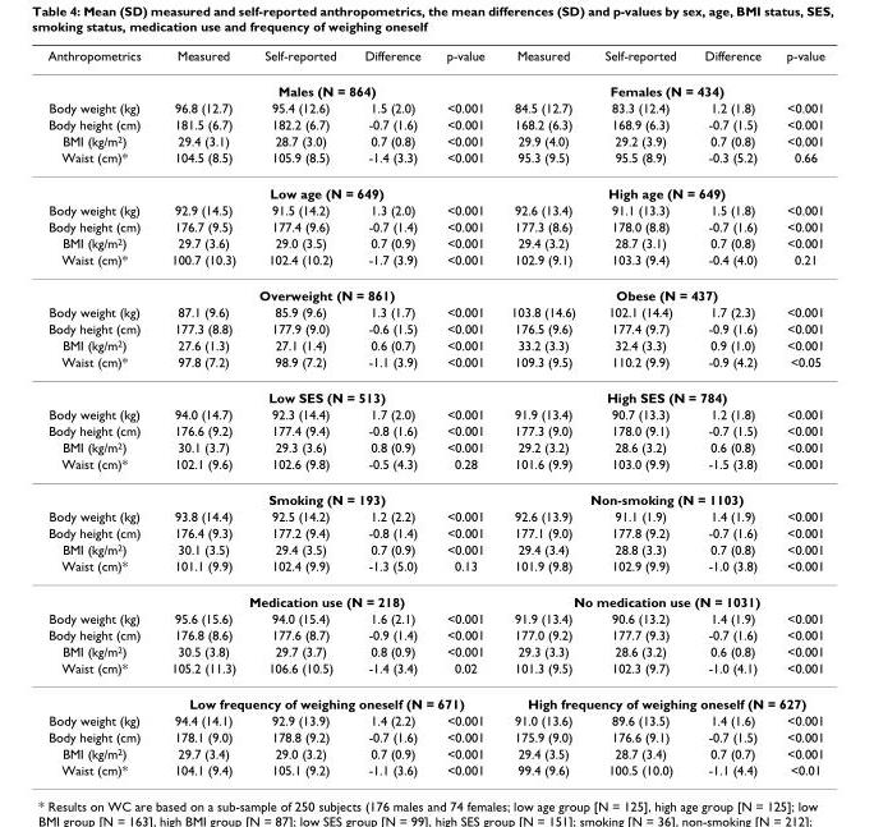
<table><thead><tr><td>Anthropometrics</td><td>Measured</td><td>Self-reported</td><td>Difference</td><td>p-value</td><td>Measured</td><td>Self-reported</td><td>Difference</td><td>p-value</td></tr></thead><tbody><tr><td></td><td colspan="4">Males (N = 864)</td><td colspan="4">Females (N = 434)</td></tr><tr><td>Body weight (kg)</td><td>96.8 (12.7)</td><td>95.4 (12.6)</td><td>1.5 (2.0)</td><td>&lt;0.001</td><td>84.5 (12.7)</td><td>83.3 (12.4)</td><td>1.2 (1.8)</td><td>&lt;0.001</td></tr><tr><td>Body height (cm)</td><td>181.5 (6.7)</td><td>182.2 (6.7)</td><td>-0.7 (1.6)</td><td>&lt;0.001</td><td>168.2 (6.3)</td><td>168.9 (6.3)</td><td>-0.7 (1.5)</td><td>&lt;0.001</td></tr><tr><td>BMI (kg/m<sup>2</sup>)</td><td>29.4 (3.1)</td><td>28.7 (3.0)</td><td>0.7 (0.8)</td><td>&lt;0.001</td><td>29.9 (4.0)</td><td>29.2 (3.9)</td><td>0.7 (0.8)</td><td>&lt;0.001</td></tr><tr><td rowspan="2">Waist (cm)*</td><td>104.5 (8.5)</td><td>105.9 (8.5)</td><td>-1.4 (3.3)</td><td>&lt;0.001</td><td>95.3 (9.5)</td><td>95.5 (8.9)</td><td>-0.3 (5.2)</td><td>0.66</td></tr><tr><td colspan="4">Low age (N = 649)</td><td colspan="4">High age (N = 649)</td></tr><tr><td>Body weight (kg)</td><td>92.9 (14.5)</td><td>91.5 (14.2)</td><td>1.3 (2.0)</td><td>&lt;0.001</td><td>92.6 (13.4)</td><td>91.1 (13.3)</td><td>1.5 (1.8)</td><td>&lt;0.001</td></tr><tr><td>Body height (cm)</td><td>176.7 (9.5)</td><td>177.4 (9.6)</td><td>-0.7 (1.4)</td><td>&lt;0.001</td><td>177.3 (8.6)</td><td>178.0 (8.8)</td><td>-0.7 (1.6)</td><td>&lt;0.001</td></tr><tr><td>BMI (kg/m<sup>2</sup>)</td><td>29.7 (3.6)</td><td>29.0 (3.5)</td><td>0.7 (0.9)</td><td>&lt;0.001</td><td>29.4 (3.2)</td><td>28.7 (3.1)</td><td>0.7 (0.8)</td><td>&lt;0.001</td></tr><tr><td rowspan="2">Waist (cm)*</td><td>100.7 (10.3)</td><td>102.4 (10.2)</td><td>-1.7 (3.9)</td><td>&lt;0.001</td><td>102.9 (9.1)</td><td>103.3 (9.4)</td><td>-0.4 (4.0)</td><td>0.21</td></tr><tr><td colspan="4">Overweight (N = 861)</td><td colspan="4">Obese (N = 437)</td></tr><tr><td>Body weight (kg)</td><td>87.1 (9.6)</td><td>85.9 (9.6)</td><td>1.3 (1.7)</td><td>&lt;0.001</td><td>103.8 (14.6)</td><td>102.1 (14.4)</td><td>1.7 (2.3)</td><td>&lt;0.001</td></tr><tr><td>Body height (cm)</td><td>177.3 (8.8)</td><td>177.9 (9.0)</td><td>-0.6 (1.5)</td><td>&lt;0.001</td><td>176.5 (9.6)</td><td>177.4 (9.7)</td><td>-0.9 (1.6)</td><td>&lt;0.001</td></tr><tr><td>BMI (kg/m<sup>2</sup>)</td><td>27.6 (1.3)</td><td>27.1 (1.4)</td><td>0.6 (0.7)</td><td>&lt;0.001</td><td>33.2 (3.3)</td><td>32.4 (3.3)</td><td>0.9 (1.0)</td><td>&lt;0.001</td></tr><tr><td rowspan="2">Waist (cm)*</td><td>97.8 (7.2)</td><td>98.9 (7.2)</td><td>-1.1 (3.9)</td><td>&lt;0.001</td><td>109.3 (9.5)</td><td>110.2 (9.9)</td><td>-0.9 (4.2)</td><td>&lt;0.05</td></tr><tr><td colspan="4">Low SES (N = 513)</td><td colspan="4">High SES (N = 784)</td></tr><tr><td>Body weight (kg)</td><td>94.0 (14.7)</td><td>92.3 (14.4)</td><td>1.7 (2.0)</td><td>&lt;0.001</td><td>91.9 (13.4)</td><td>90.7 (13.3)</td><td>1.2 (1.8)</td><td>&lt;0.001</td></tr><tr><td>Body height (cm)</td><td>176.6 (9.2)</td><td>177.4 (9.4)</td><td>-0.8 (1.6)</td><td>&lt;0.001</td><td>177.3 (9.0)</td><td>178.0 (9.1)</td><td>-0.7 (1.5)</td><td>&lt;0.001</td></tr><tr><td>BMI (kg/m<sup>2</sup>)</td><td>30.1 (3.7)</td><td>29.3 (3.6)</td><td>0.8 (0.9)</td><td>&lt;0.001</td><td>29.2 (3.2)</td><td>28.6 (3.2)</td><td>0.6 (0.8)</td><td>&lt;0.001</td></tr><tr><td rowspan="2">Waist (cm)*</td><td>102.1 (9.6)</td><td>102.6 (9.8)</td><td>-0.5 (4.3)</td><td>0.28</td><td>101.6 (9.9)</td><td>103.0 (9.9)</td><td>-1.5 (3.8)</td><td>&lt;0.001</td></tr><tr><td colspan="4">Smoking (N = 193)</td><td colspan="4">Non-smoking (N = 1103)</td></tr><tr><td>Body weight (kg)</td><td>93.8 (14.4)</td><td>92.5 (14.2)</td><td>1.2 (2.2)</td><td>&lt;0.001</td><td>92.6 (13.9)</td><td>91.1 (1.9)</td><td>1.4 (1.9)</td><td>&lt;0.001</td></tr><tr><td>Body height (cm)</td><td>176.4 (9.3)</td><td>177.2 (9.4)</td><td>-0.8 (1.4)</td><td>&lt;0.001</td><td>177.1 (9.0)</td><td>177.8 (9.2)</td><td>-0.7 (1.6)</td><td>&lt;0.001</td></tr><tr><td>BMI (kg/m<sup>2</sup>)</td><td>30.1 (3.5)</td><td>29.4 (3.5)</td><td>0.7 (0.9)</td><td>&lt;0.001</td><td>29.4 (3.4)</td><td>28.8 (3.3)</td><td>0.7 (0.8)</td><td>&lt;0.001</td></tr><tr><td rowspan="2">Waist (cm)*</td><td>101.1 (9.9)</td><td>102.4 (9.9)</td><td>-1.3 (5.0)</td><td>0.13</td><td>101.9 (9.8)</td><td>102.9 (9.9)</td><td>-1.0 (3.8)</td><td>&lt;0.001</td></tr><tr><td colspan="4">Medication use (N = 218)</td><td colspan="4">No medication use (N = 1031)</td></tr><tr><td>Body weight (kg)</td><td>95.6 (15.6)</td><td>94.0 (15.4)</td><td>1.6 (2.1)</td><td>&lt;0.001</td><td>91.9 (13.4)</td><td>90.6 (13.2)</td><td>1.4 (1.9)</td><td>&lt;0.001</td></tr><tr><td>Body height (cm)</td><td>176.8 (8.6)</td><td>177.6 (8.7)</td><td>-0.9 (1.4)</td><td>&lt;0.001</td><td>177.0 (9.2)</td><td>177.7 (9.3)</td><td>-0.7 (1.6)</td><td>&lt;0.001</td></tr><tr><td>BMI (kg/m<sup>2</sup>)</td><td>30.5 (3.8)</td><td>29.7 (3.7)</td><td>0.8 (0.9)</td><td>&lt;0.001</td><td>29.3 (3.3)</td><td>28.6 (3.2)</td><td>0.6 (0.8)</td><td>&lt;0.001</td></tr><tr><td rowspan="2">Waist (cm)*</td><td>105.2 (11.3)</td><td>106.6 (10.5)</td><td>-1.4 (3.4)</td><td>0.02</td><td>101.3 (9.5)</td><td>102.3 (9.7)</td><td>-1.0 (4.1)</td><td>&lt;0.001</td></tr><tr><td colspan="4">Low frequency of weighing oneself (N = 671)</td><td colspan="4">High frequency of weighing oneself (N = 627)</td></tr><tr><td>Body weight (kg)</td><td>94.4 (14.1)</td><td>92.9 (13.9)</td><td>1.4 (2.2)</td><td>&lt;0.001</td><td>91.0 (13.6)</td><td>89.6 (13.5)</td><td>1.4 (1.6)</td><td>&lt;0.001</td></tr><tr><td>Body height (cm)</td><td>178.1 (9.0)</td><td>178.8 (9.2)</td><td>-0.7 (1.6)</td><td>&lt;0.001</td><td>175.9 (9.0)</td><td>176.6 (9.1)</td><td>-0.7 (1.5)</td><td>&lt;0.001</td></tr><tr><td>BMI (kg/m<sup>2</sup>)</td><td>29.7 (3.4)</td><td>29.0 (3.2)</td><td>0.7 (0.9)</td><td>&lt;0.001</td><td>29.4 (3.5)</td><td>28.7 (3.4)</td><td>0.7 (0.7)</td><td>&lt;0.001</td></tr><tr><td>Waist (cm)*</td><td>104.1 (9.4)</td><td>105.1 (9.2)</td><td>-1.1 (3.6)</td><td>&lt;0.001</td><td>99.4 (9.6)</td><td>100.5 (10.0)</td><td>-1.1 (4.4)</td><td>&lt;0.01</td></tr></tbody></table>